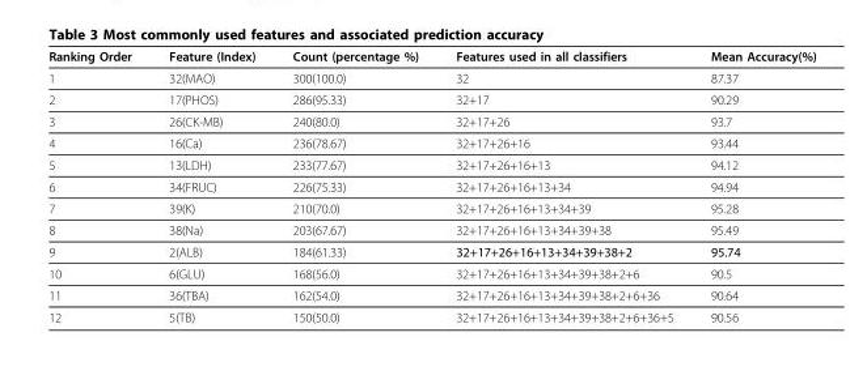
<table><thead><tr><td>Ranking Order</td><td>Feature (Index)</td><td>Count (percentage %)</td><td>Features used in all classifiers</td><td>Mean Accuracy(%)</td></tr></thead><tbody><tr><td>1</td><td>32(MAO)</td><td>300(100.0)</td><td>32</td><td>87.37</td></tr><tr><td>2</td><td>17(PHOS)</td><td>286(95.33)</td><td>32+17</td><td>90.29</td></tr><tr><td>3</td><td>26(CK-MB)</td><td>240(80.0)</td><td>32+17+26</td><td>93.7</td></tr><tr><td>4</td><td>16(Ca)</td><td>236(78.67)</td><td>32+17+26+16</td><td>93.44</td></tr><tr><td>5</td><td>13(LDH)</td><td>233(77.67)</td><td>32+17+26+16+13</td><td>94.12</td></tr><tr><td>6</td><td>34(FRUC)</td><td>226(75.33)</td><td>32+17+26+16+13+34</td><td>94.94</td></tr><tr><td>7</td><td>39(K)</td><td>210(70.0)</td><td>32+17+26+16+13+34+39</td><td>95.28</td></tr><tr><td>8</td><td>38(Na)</td><td>203(67.67)</td><td>32+17+26+16+13+34+39+38</td><td>95.49</td></tr><tr><td>9</td><td>2(ALB)</td><td>184(61.33)</td><td>32+17+26+16+13+34+39+38+2</td><td>95.74</td></tr><tr><td>10</td><td>6(GLU)</td><td>168(56.0)</td><td>32+17+26+16+13+34+39+38+2+6</td><td>90.5</td></tr><tr><td>11</td><td>36(TBA)</td><td>162(54.0)</td><td>32+17+26+16+13+34+39+38+2+6+36</td><td>90.64</td></tr><tr><td>12</td><td>5(TB)</td><td>150(50.0)</td><td>32+17+26+16+13+34+39+38+2+6+36+5</td><td>90.56</td></tr></tbody></table>